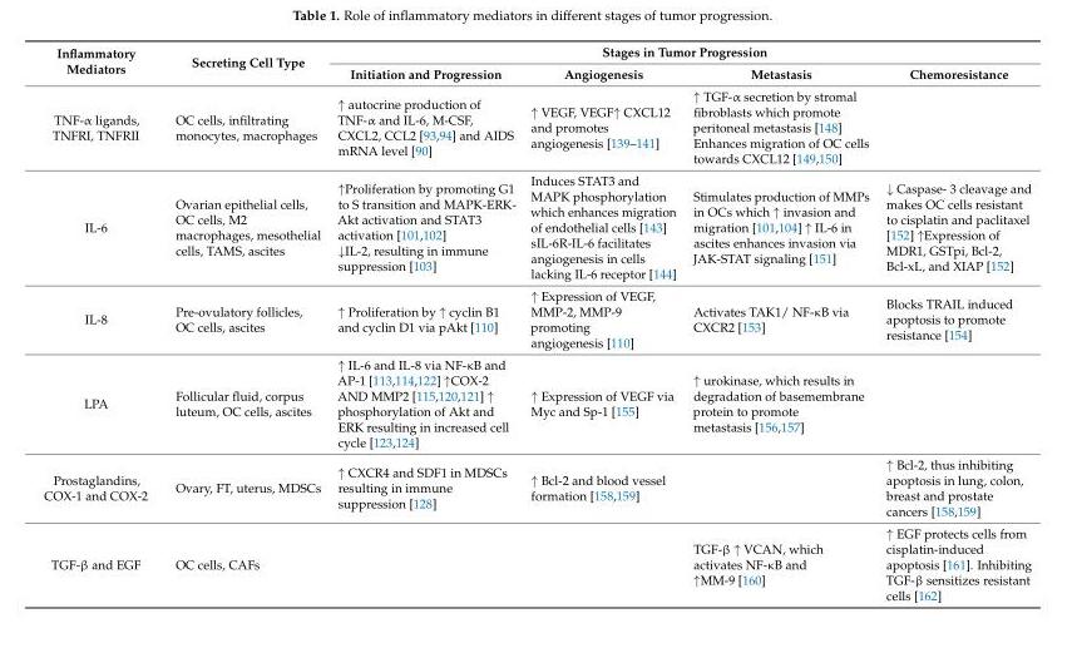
<table><thead><tr><td rowspan="2">Inflammatory Mediators</td><td rowspan="2">Secreting Cell Type</td><td colspan="4">Stages in Tumor Progression</td></tr><tr><td>Initiation and Progression</td><td>Angiogenesis</td><td>Metastasis</td><td>Chemoresistance</td></tr></thead><tbody><tr><td>TNF-α ligands, TNFRI, TNFRII</td><td>OC cells, infiltrating monocytes, macrophages</td><td>↑ autocrine production of TNF-α and IL-6, M-CSF, CXCL2, CCL2 [93,94] and AIDS mRNA level [90]</td><td>↑ VEGF, VEGF↑ CXCL12 and promotes angiogenesis [139–141]</td><td>↑ TGF-α secretion by stromal fibroblasts which promote peritoneal metastasis [148] Enhances migration of OC cells towards CXCL12 [149,150]</td><td></td></tr><tr><td>IL-6</td><td>Ovarian epithelial cells, OC cells, M2 macrophages, mesothelial cells, TAMS, ascites</td><td>↑Proliferation by promoting G1 to S transition and MAPK-ERK- Akt activation and STAT3 activation [101,102] ↓IL-2, resulting in immune suppression [103]</td><td>Induces STAT3 and MAPK phosphorylation which enhances migration of endothelial cells [143] sIL-6R-IL-6 facilitates angiogenesis in cells lacking IL-6 receptor [144]</td><td>Stimulates production of MMPs in OCs which ↑ invasion and migration [101,104] ↑ IL-6 in ascites enhances invasion via JAK-STAT signaling [151]</td><td>↓ Caspase- 3 cleavage and makes OC cells resistant to cisplatin and paclitaxel [152] ↑Expression of MDR1, GSTpi, Bcl-2, Bcl-xL, and XIAP [152]</td></tr><tr><td>IL-8</td><td>Pre-ovulatory follicles, OC cells, ascites</td><td>↑ Proliferation by ↑ cyclin B1 and cyclin D1 via pAkt [110]</td><td>↑ Expression of VEGF, MMP-2, MMP-9 promoting angiogenesis [110]</td><td>Activates TAK1/ NF-κB via CXCR2 [153]</td><td>Blocks TRAIL induced apoptosis to promote resistance [154]</td></tr><tr><td>LPA</td><td>Follicular fluid, corpus luteum, OC cells, ascites</td><td>↑ IL-6 and IL-8 via NF-κB and AP-1 [113,114,122] ↑COX-2 AND MMP2 [115,120,121] ↑ phosphorylation of Akt and ERK resulting in increased cell cycle [123,124]</td><td>↑ Expression of VEGF via Myc and Sp-1 [155]</td><td>↑ urokinase, which results in degradation of basemembrane protein to promote metastasis [156,157]</td><td></td></tr><tr><td>Prostaglandins, COX-1 and COX-2</td><td>Ovary, FT, uterus, MDSCs</td><td>↑ CXCR4 and SDF1 in MDSCs resulting in immune suppression [128]</td><td>↑ Bcl-2 and blood vessel formation [158,159]</td><td></td><td>↑ Bcl-2, thus inhibiting apoptosis in lung, colon, breast and prostate cancers [158,159]</td></tr><tr><td>TGF-β and EGF</td><td>OC cells, CAFs</td><td></td><td></td><td>TGF-β ↑ VCAN, which activates NF-κB and ↑MM-9 [160]</td><td>↑ EGF protects cells from cisplatin-induced apoptosis [161]. Inhibiting TGF-β sensitizes resistant cells [162]</td></tr></tbody></table>